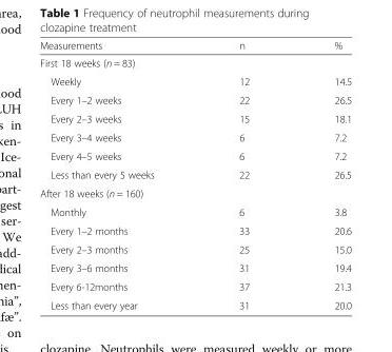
<table><thead><tr><td>Measurements</td><td>n</td><td>%</td></tr></thead><tbody><tr><td colspan="3">First 18 weeks (n = 83)</td></tr><tr><td>Weekly</td><td>12</td><td>14.5</td></tr><tr><td>Every 1–2 weeks</td><td>22</td><td>26.5</td></tr><tr><td>Every 2–3 weeks</td><td>15</td><td>18.1</td></tr><tr><td>Every 3–4 weeks</td><td>6</td><td>7.2</td></tr><tr><td>Every 4–5 weeks</td><td>6</td><td>7.2</td></tr><tr><td>Less than every 5 weeks</td><td>22</td><td>26.5</td></tr><tr><td colspan="3">After 18 weeks (n = 160)</td></tr><tr><td>Monthly</td><td>6</td><td>3.8</td></tr><tr><td>Every 1–2 months</td><td>33</td><td>20.6</td></tr><tr><td>Every 2–3 months</td><td>25</td><td>15.0</td></tr><tr><td>Every 3–6 months</td><td>31</td><td>19.4</td></tr><tr><td>Every 6-12months</td><td>37</td><td>21.3</td></tr><tr><td>Less than every year</td><td>31</td><td>20.0</td></tr></tbody></table>